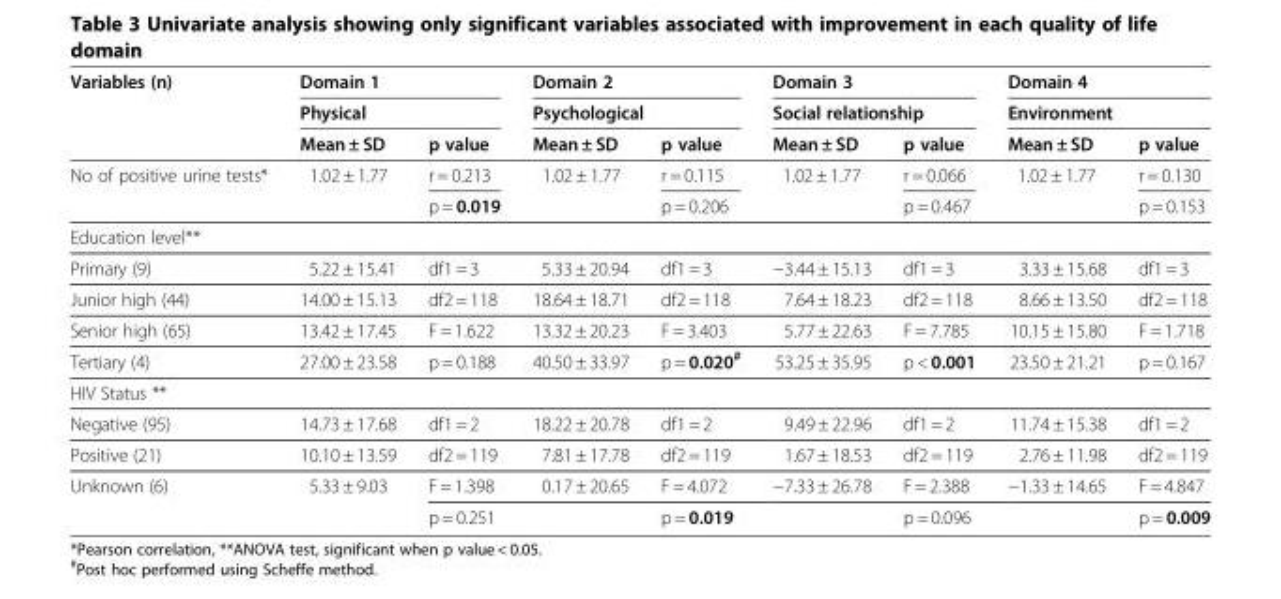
<table><thead><tr><td rowspan="3">Variables (n)</td><td rowspan="2" colspan="2">Domain 1 Physical</td><td rowspan="2" colspan="2">Domain 2 Psychological</td><td rowspan="2" colspan="2">Domain 3 Social relationship</td><td rowspan="2" colspan="2">Domain 4 Environment</td></tr><tr></tr><tr><td>Mean ± SD</td><td>p value</td><td>Mean ± SD</td><td>p value</td><td>Mean ± SD</td><td>p value</td><td>Mean ± SD</td><td>p value</td></tr></thead><tbody><tr><td rowspan="2">No of positive urine tests*</td><td>1.02 ± 1.77</td><td>r = 0.213</td><td>1.02 ± 1.77</td><td>r = 0.115</td><td>1.02 ± 1.77</td><td>r = 0.066</td><td>1.02 ± 1.77</td><td>r = 0.130</td></tr><tr><td></td><td>p = 0.019</td><td></td><td>p = 0.206</td><td></td><td>p = 0.467</td><td></td><td>p = 0.153</td></tr><tr><td colspan="9">Education level**</td></tr><tr><td>Primary (9)</td><td>5.22 ± 15.41</td><td>df1 = 3</td><td>5.33 ± 20.94</td><td>df1 = 3</td><td>−3.44 ± 15.13</td><td>df1 = 3</td><td>3.33 ± 15.68</td><td>df1 = 3</td></tr><tr><td>Junior high (44)</td><td>14.00 ± 15.13</td><td>df2 = 118</td><td>18.64 ± 18.71</td><td>df2 = 118</td><td>7.64 ± 18.23</td><td>df2 = 118</td><td>8.66 ± 13.50</td><td>df2 = 118</td></tr><tr><td>Senior high (65)</td><td>13.42 ± 17.45</td><td>F = 1.622</td><td>13.32 ± 20.23</td><td>F = 3.403</td><td>5.77 ± 22.63</td><td>F = 7.785</td><td>10.15 ± 15.80</td><td>F = 1.718</td></tr><tr><td>Tertiary (4)</td><td>27.00 ± 23.58</td><td>p = 0.188</td><td>40.50 ± 33.97</td><td>p = 0.020<sup>#</sup></td><td>53.25 ± 35.95</td><td>p &lt; 0.001</td><td>23.50 ± 21.21</td><td>p = 0.167</td></tr><tr><td colspan="9">HIV Status **</td></tr><tr><td>Negative (95)</td><td>14.73 ± 17.68</td><td>df1 = 2</td><td>18.22 ± 20.78</td><td>df1 = 2</td><td>9.49 ± 22.96</td><td>df1 = 2</td><td>11.74 ± 15.38</td><td>df1 = 2</td></tr><tr><td>Positive (21)</td><td>10.10 ± 13.59</td><td>df2 = 119</td><td>7.81 ± 17.78</td><td>df2 = 119</td><td>1.67 ± 18.53</td><td>df2 = 119</td><td>2.76 ± 11.98</td><td>df2 = 119</td></tr><tr><td rowspan="2">Unknown (6)</td><td>5.33 ± 9.03</td><td>F = 1.398</td><td>0.17 ± 20.65</td><td>F = 4.072</td><td>−7.33 ± 26.78</td><td>F = 2.388</td><td>−1.33 ± 14.65</td><td>F = 4.847</td></tr><tr><td></td><td>p = 0.251</td><td></td><td>p = 0.019</td><td></td><td>p = 0.096</td><td></td><td>p = 0.009</td></tr></tbody></table>